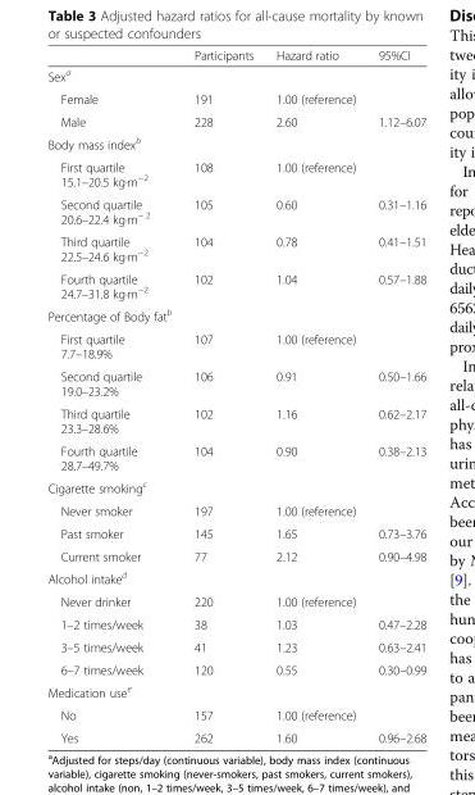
<table><thead><tr><td></td><td>Participants</td><td>Hazard ratio</td><td>95%CI</td></tr></thead><tbody><tr><td colspan="4">Sex<sup>a</sup></td></tr><tr><td>Female</td><td>191</td><td>1.00 (reference)</td><td></td></tr><tr><td>Male</td><td>228</td><td>2.60</td><td>1.12–6.07</td></tr><tr><td colspan="4">Body mass index<sup>b</sup></td></tr><tr><td>First quartile 15.1–20.5 kg·m<sup>−2</sup></td><td>108</td><td>1.00 (reference)</td><td></td></tr><tr><td>Second quartile 20.6–22.4 kg·m<sup>− 2</sup></td><td>105</td><td>0.60</td><td>0.31–1.16</td></tr><tr><td>Third quartile 22.5–24.6 kg·m<sup>−2</sup></td><td>104</td><td>0.78</td><td>0.41–1.51</td></tr><tr><td>Fourth quartile 24.7–31.8 kg·m<sup>−2</sup></td><td>102</td><td>1.04</td><td>0.57–1.88</td></tr><tr><td colspan="4">Percentage of Body fat<sup>b</sup></td></tr><tr><td>First quartile 7.7–18.9%</td><td>107</td><td>1.00 (reference)</td><td></td></tr><tr><td>Second quartile 19.0–23.2%</td><td>106</td><td>0.91</td><td>0.50–1.66</td></tr><tr><td>Third quartile 23.3–28.6%</td><td>102</td><td>1.16</td><td>0.62–2.17</td></tr><tr><td>Fourth quartile 28.7–49.7%</td><td>104</td><td>0.90</td><td>0.38–2.13</td></tr><tr><td colspan="4">Cigarette smoking<sup>c</sup></td></tr><tr><td>Never smoker</td><td>197</td><td>1.00 (reference)</td><td></td></tr><tr><td>Past smoker</td><td>145</td><td>1.65</td><td>0.73–3.76</td></tr><tr><td>Current smoker</td><td>77</td><td>2.12</td><td>0.90–4.98</td></tr><tr><td colspan="4">Alcohol intake<sup>d</sup></td></tr><tr><td>Never drinker</td><td>220</td><td>1.00 (reference)</td><td></td></tr><tr><td>1–2 times/week</td><td>38</td><td>1.03</td><td>0.47–2.28</td></tr><tr><td>3–5 times/week</td><td>41</td><td>1.23</td><td>0.63–2.41</td></tr><tr><td>6–7 times/week</td><td>120</td><td>0.55</td><td>0.30–0.99</td></tr><tr><td colspan="4">Medication use<sup>e</sup></td></tr><tr><td>No</td><td>157</td><td>1.00 (reference)</td><td></td></tr><tr><td>Yes</td><td>262</td><td>1.60</td><td>0.96–2.68</td></tr></tbody></table>